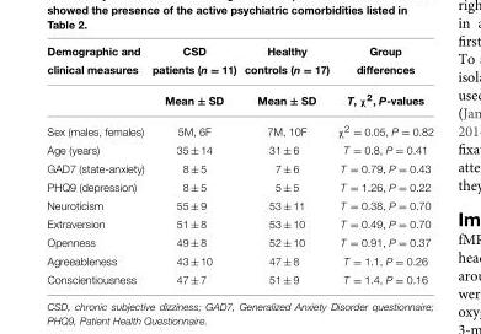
<table><thead><tr><td>Demographic and clinical measures</td><td>CSD patients (n = 11)</td><td>Healthy controls (n = 17)</td><td>Group differences</td></tr></thead><tbody><tr><td></td><td>Mean ± SD</td><td>Mean ± SD</td><td>T, χ<sup>2</sup>, P-values</td></tr><tr><td>Sex (males, females)</td><td>5M, 6F</td><td>7M, 10F</td><td>χ<sup>2</sup> = 0.05, P = 0.82</td></tr><tr><td>Age (years)</td><td>35 ± 14</td><td>31 ± 6</td><td>T = 0.8, P = 0.41</td></tr><tr><td>GAD7 (state-anxiety)</td><td>8 ± 5</td><td>7 ± 6</td><td>T = 0.79, P = 0.43</td></tr><tr><td>PHQ9 (depression)</td><td>8 ± 5</td><td>5 ± 5</td><td>T = 1.26, P = 0.22</td></tr><tr><td>Neuroticism</td><td>55 ± 9</td><td>53 ± 11</td><td>T = 0.38, P = 0.70</td></tr><tr><td>Extraversion</td><td>51 ± 8</td><td>53 ± 10</td><td>T = 0.49, P = 0.70</td></tr><tr><td>Openness</td><td>49 ± 8</td><td>52 ± 10</td><td>T = 0.91, P = 0.37</td></tr><tr><td>Agreeableness</td><td>43 ± 10</td><td>47 ± 8</td><td>T = 1.1, P = 0.26</td></tr><tr><td>Conscientiousness</td><td>47 ± 7</td><td>51 ± 9</td><td>T = 1.4, P = 0.16</td></tr></tbody></table>